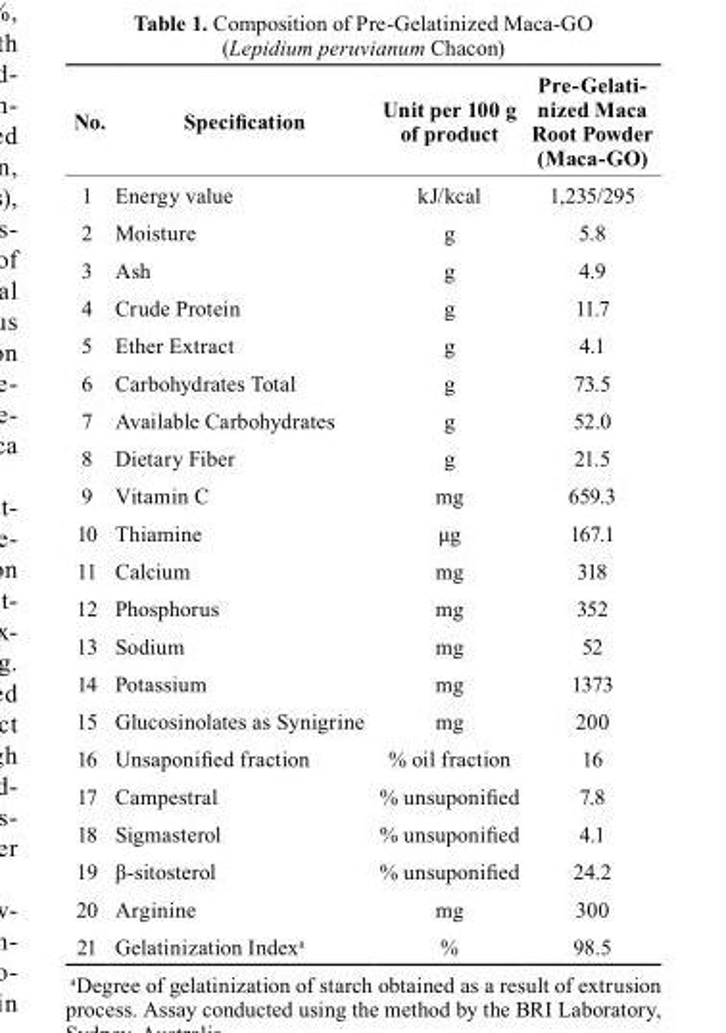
<table><thead><tr><td>No.</td><td>Specification</td><td>Unit per 100 g of product</td><td>Pre-Gelati- nized Maca root Powder (Maca-GO)</td></tr></thead><tbody><tr><td>1</td><td>Energy value</td><td>kJ/kcal</td><td>1,235/295</td></tr><tr><td>2</td><td>Moisture</td><td>g</td><td>5.8</td></tr><tr><td>3</td><td>Ash</td><td>g</td><td>4.9</td></tr><tr><td>4</td><td>Crude Protein</td><td>g</td><td>11.7</td></tr><tr><td>5</td><td>Ether Extract</td><td>g</td><td>4.1</td></tr><tr><td>6</td><td>Carbohydrates Total</td><td>g</td><td>73.5</td></tr><tr><td>7</td><td>Available Carbohydrates</td><td>g</td><td>52.0</td></tr><tr><td>8</td><td>Dietary Fiber</td><td>g</td><td>21.5</td></tr><tr><td>9</td><td>Vitamin C</td><td>mg</td><td>659.3</td></tr><tr><td>10</td><td>Thiamine</td><td>μg</td><td>167.1</td></tr><tr><td>11</td><td>Calcium</td><td>mg</td><td>318</td></tr><tr><td>12</td><td>Phosphorus</td><td>mg</td><td>352</td></tr><tr><td>13</td><td>Sodium</td><td>mg</td><td>52</td></tr><tr><td>14</td><td>Potassium</td><td>mg</td><td>1373</td></tr><tr><td>15</td><td>Glucosinolates as Synigrine</td><td>mg</td><td>200</td></tr><tr><td>16</td><td>Unsaponified fraction</td><td>% oil fraction</td><td>16</td></tr><tr><td>17</td><td>Campestral</td><td>% unsuponified</td><td>7.8</td></tr><tr><td>18</td><td>Sigmasterol</td><td>% unsuponified</td><td>4.1</td></tr><tr><td>19</td><td>β-sitosterol</td><td>% unsuponified</td><td>24.2</td></tr><tr><td>20</td><td>Arginine</td><td>mg</td><td>300</td></tr><tr><td>21</td><td>Gelatinization Index<sup>a</sup></td><td>%</td><td>98.5</td></tr></tbody></table>